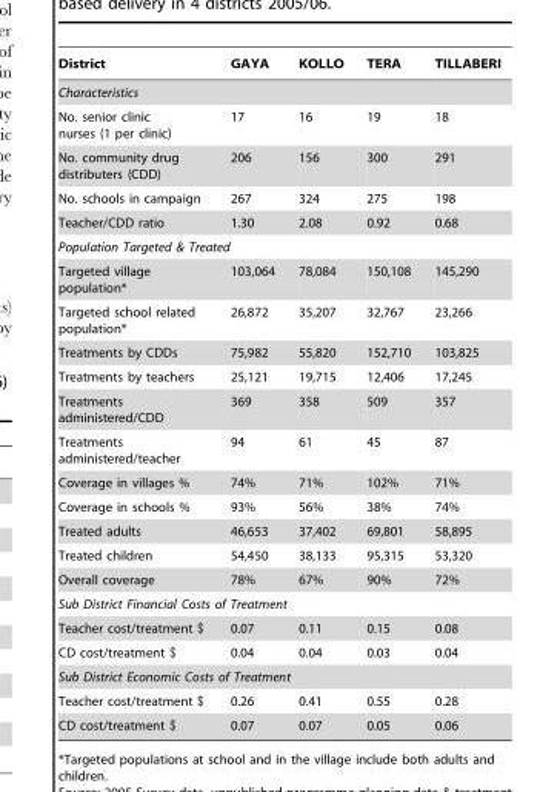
<table><thead><tr><td>District</td><td>GAYA</td><td>KOLLO</td><td>TERA</td><td>TILLABERI</td></tr></thead><tbody><tr><td colspan="5">Characteristics</td></tr><tr><td>No. senior clinic nurses (1 per clinic)</td><td>17</td><td>16</td><td>19</td><td>18</td></tr><tr><td>No. community drug distributers (CDD)</td><td>206</td><td>156</td><td>300</td><td>291</td></tr><tr><td>No. schools in campaign</td><td>267</td><td>324</td><td>275</td><td>198</td></tr><tr><td>Teacher/CDD ratio</td><td>1.30</td><td>2.08</td><td>0.92</td><td>0.68</td></tr><tr><td colspan="5">Population Targeted &amp; Treated</td></tr><tr><td>Targeted village population*</td><td>103,064</td><td>78,084</td><td>150,108</td><td>145,290</td></tr><tr><td>Targeted school related population*</td><td>26,872</td><td>35,207</td><td>32,767</td><td>23,266</td></tr><tr><td>Treatments by CDDs</td><td>75,982</td><td>55,820</td><td>152,710</td><td>103,825</td></tr><tr><td>Treatments by teachers</td><td>25,121</td><td>19,715</td><td>12,406</td><td>17,245</td></tr><tr><td>Treatments administered/CDD</td><td>369</td><td>358</td><td>509</td><td>357</td></tr><tr><td>Treatments administered/teacher</td><td>94</td><td>61</td><td>45</td><td>87</td></tr><tr><td>Coverage in villages %</td><td>74%</td><td>71%</td><td>102%</td><td>71%</td></tr><tr><td>Coverage in schools %</td><td>93%</td><td>56%</td><td>38%</td><td>74%</td></tr><tr><td>Treated adults</td><td>46,653</td><td>37,402</td><td>69,801</td><td>58,895</td></tr><tr><td>Treated children</td><td>54,450</td><td>38,133</td><td>95,315</td><td>53,320</td></tr><tr><td>Overall coverage</td><td>78%</td><td>67%</td><td>90%</td><td>72%</td></tr><tr><td colspan="5">Sub District Financial Costs of Treatment</td></tr><tr><td>Teacher cost/treatment $</td><td>0.07</td><td>0.11</td><td>0.15</td><td>0.08</td></tr><tr><td>CD cost/treatment $</td><td>0.04</td><td>0.04</td><td>0.03</td><td>0.04</td></tr><tr><td colspan="5">Sub District Economic Costs of Treatment</td></tr><tr><td>Teacher cost/treatment $</td><td>0.26</td><td>0.41</td><td>0.55</td><td>0.28</td></tr><tr><td>CD cost/treatment $</td><td>0.07</td><td>0.07</td><td>0.05</td><td>0.06</td></tr></tbody></table>